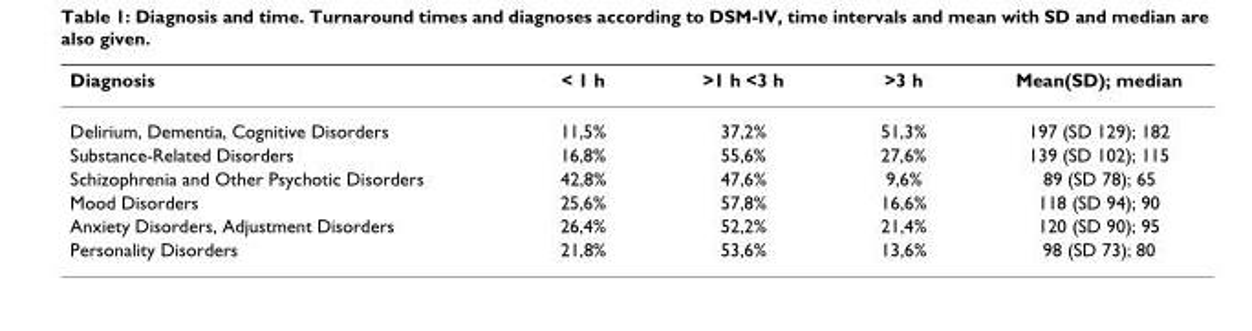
<table><thead><tr><td>Diagnosis</td><td>&lt; 1 h</td><td>&gt;1 h &lt;3 h</td><td>&gt;3 h</td><td>Mean(SD); median</td></tr></thead><tbody><tr><td>Delirium, Dementia, Cognitive Disorders</td><td>11,5%</td><td>37,2%</td><td>51,3%</td><td>197 (SD 129); 182</td></tr><tr><td>Substance-Related Disorders</td><td>16,8%</td><td>55,6%</td><td>27,6%</td><td>139 (SD 102); 115</td></tr><tr><td>Schizophrenia and Other Psychotic Disorders</td><td>42,8%</td><td>47,6%</td><td>9,6%</td><td>89 (SD 78); 65</td></tr><tr><td>Mood Disorders</td><td>25,6%</td><td>57,8%</td><td>16,6%</td><td>118 (SD 94); 90</td></tr><tr><td>Anxiety Disorders, Adjustment Disorders</td><td>26,4%</td><td>52,2%</td><td>21,4%</td><td>120 (SD 90); 95</td></tr><tr><td>Personality Disorders</td><td>21,8%</td><td>53,6%</td><td>13,6%</td><td>98 (SD 73); 80</td></tr></tbody></table>